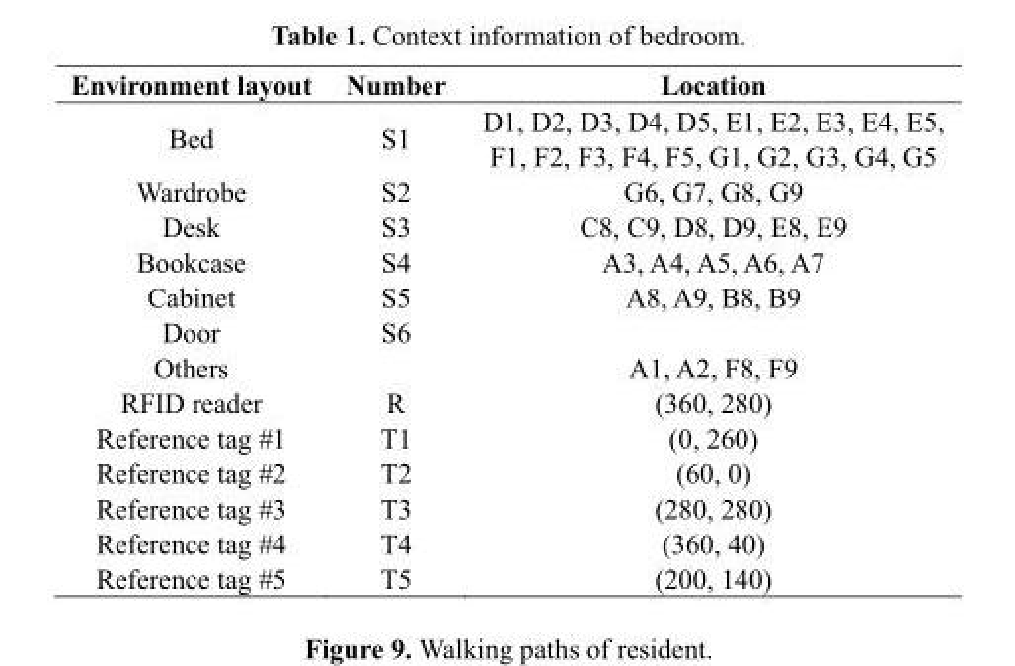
<table><thead><tr><td>Environment layout</td><td>Number</td><td>Location</td></tr></thead><tbody><tr><td>Bed</td><td>S1</td><td>D1, D2, D3, D4, D5, E1, E2, E3, E4, E5, F1, F2, F3, F4, F5, G1, G2, G3, G4, G5</td></tr><tr><td>Wardrobe</td><td>S2</td><td>G6, G7, G8, G9</td></tr><tr><td>Desk</td><td>S3</td><td>C8, C9, D8, D9, E8, E9</td></tr><tr><td>Bookcase</td><td>S4</td><td>A3, A4, A5, A6, A7</td></tr><tr><td>Cabinet</td><td>S5</td><td>A8, A9, B8, B9</td></tr><tr><td>Door</td><td>S6</td><td></td></tr><tr><td>Others</td><td></td><td>A1, A2, F8, F9</td></tr><tr><td>RFID reader</td><td>R</td><td>(360, 280)</td></tr><tr><td>Reference tag #<sup>1</sup></td><td>T1</td><td>(0, 260)</td></tr><tr><td>Reference tag #<sup>2</sup></td><td>T2</td><td>(60, 0)</td></tr><tr><td>Reference tag #<sup>3</sup></td><td>T3</td><td>(280, 280)</td></tr><tr><td>Reference tag #<sup>4</sup></td><td>T4</td><td>(360, 40)</td></tr><tr><td>Reference tag #<sup>5</sup></td><td>T5</td><td>(200, 140)</td></tr></tbody></table>